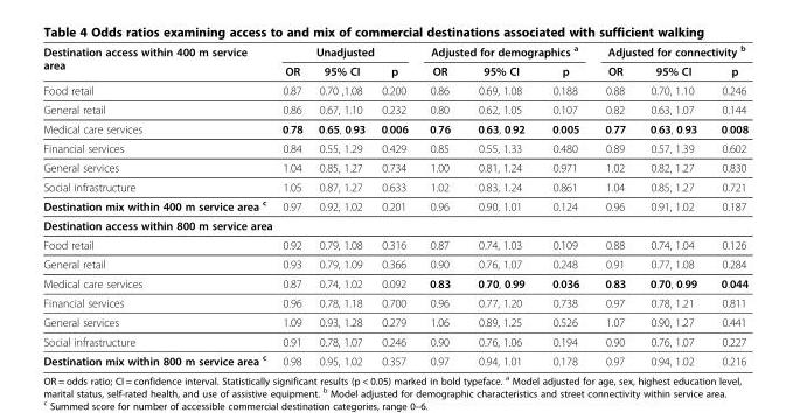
<table><thead><tr><td rowspan="2">Destination access within 400 m service area</td><td colspan="3">Unadjusted</td><td colspan="3">Adjusted for demographics <sup>a</sup></td><td colspan="3">Adjusted for connectivity <sup>b</sup></td></tr><tr><td>OR</td><td>95% CI</td><td>p</td><td>OR</td><td>95% CI</td><td>p</td><td>OR</td><td>95% CI</td><td>p</td></tr></thead><tbody><tr><td>Food retail</td><td>0.87</td><td>0.70 ,1.08</td><td>0.200</td><td>0.86</td><td>0.69, 1.08</td><td>0.188</td><td>0.88</td><td>0.70, 1.10</td><td>0.246</td></tr><tr><td>General retail</td><td>0.86</td><td>0.67, 1.10</td><td>0.232</td><td>0.80</td><td>0.62, 1.05</td><td>0.107</td><td>0.82</td><td>0.63, 1.07</td><td>0.144</td></tr><tr><td>Medical care services</td><td>0.78</td><td>0.65, 0.93</td><td>0.006</td><td>0.76</td><td>0.63, 0.92</td><td>0.005</td><td>0.77</td><td>0.63, 0.93</td><td>0.008</td></tr><tr><td>Financial services</td><td>0.84</td><td>0.55, 1.29</td><td>0.429</td><td>0.85</td><td>0.55, 1.33</td><td>0.480</td><td>0.89</td><td>0.57, 1.39</td><td>0.602</td></tr><tr><td>General services</td><td>1.04</td><td>0.85, 1.27</td><td>0.734</td><td>1.00</td><td>0.81, 1.24</td><td>0.971</td><td>1.02</td><td>0.82, 1.27</td><td>0.830</td></tr><tr><td>Social infrastructure</td><td>1.05</td><td>0.87, 1.27</td><td>0.633</td><td>1.02</td><td>0.83, 1.24</td><td>0.861</td><td>1.04</td><td>0.85, 1.27</td><td>0.721</td></tr><tr><td>Destination mix within 400 m service area <sup>c</sup></td><td>0.97</td><td>0.92, 1.02</td><td>0.201</td><td>0.96</td><td>0.90, 1.01</td><td>0.124</td><td>0.96</td><td>0.91, 1.02</td><td>0.187</td></tr><tr><td colspan="10">Destination access within 800 m service area</td></tr><tr><td>Food retail</td><td>0.92</td><td>0.79, 1.08</td><td>0.316</td><td>0.87</td><td>0.74, 1.03</td><td>0.109</td><td>0.88</td><td>0.74, 1.04</td><td>0.126</td></tr><tr><td>General retail</td><td>0.93</td><td>0.79, 1.09</td><td>0.366</td><td>0.90</td><td>0.76, 1.07</td><td>0.248</td><td>0.91</td><td>0.77, 1.08</td><td>0.284</td></tr><tr><td>Medical care services</td><td>0.87</td><td>0.74, 1.02</td><td>0.092</td><td>0.83</td><td>0.70, 0.99</td><td>0.036</td><td>0.83</td><td>0.70, 0.99</td><td>0.044</td></tr><tr><td>Financial services</td><td>0.96</td><td>0.78, 1.18</td><td>0.700</td><td>0.96</td><td>0.77, 1.20</td><td>0.738</td><td>0.97</td><td>0.78, 1.21</td><td>0.811</td></tr><tr><td>General services</td><td>1.09</td><td>0.93, 1.28</td><td>0.279</td><td>1.06</td><td>0.89, 1.25</td><td>0.526</td><td>1.07</td><td>0.90, 1.27</td><td>0.441</td></tr><tr><td>Social infrastructure</td><td>0.91</td><td>0.78, 1.07</td><td>0.246</td><td>0.90</td><td>0.76, 1.06</td><td>0.194</td><td>0.90</td><td>0.76, 1.07</td><td>0.227</td></tr><tr><td>Destination mix within 800 m service area <sup>c</sup></td><td>0.98</td><td>0.95, 1.02</td><td>0.357</td><td>0.97</td><td>0.94, 1.01</td><td>0.178</td><td>0.97</td><td>0.94, 1.02</td><td>0.216</td></tr></tbody></table>